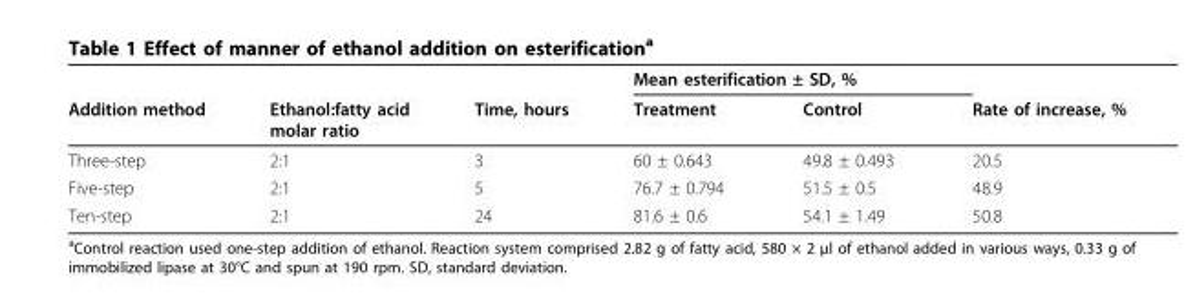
<table><thead><tr><td rowspan="2">Addition method</td><td rowspan="2">Ethanol:fatty acid molar ratio</td><td rowspan="2">Time, hours</td><td colspan="2">Mean esterification ± SD, %</td><td rowspan="2">Rate of increase, %</td></tr><tr><td>Treatment</td><td>Control</td></tr></thead><tbody><tr><td>Three-step</td><td>2:1</td><td>3</td><td>60 ± 0.643</td><td>49.8 ± 0.493</td><td>20.5</td></tr><tr><td>Five-step</td><td>2:1</td><td>5</td><td>76.7 ± 0.794</td><td>51.5 ± 0.5</td><td>48.9</td></tr><tr><td>Ten-step</td><td>2:1</td><td>24</td><td>81.6 ± 0.6</td><td>54.1 ± 1.49</td><td>50.8</td></tr></tbody></table>